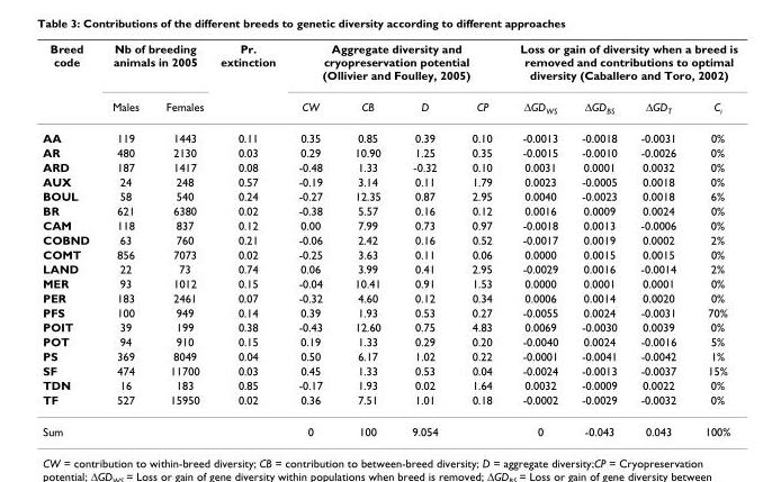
<table><thead><tr><td rowspan="2">Breed code</td><td colspan="2">Nb of breeding animals in 2005</td><td rowspan="2">Pr. extinction</td><td colspan="4">Aggregate diversity and cryopreservation potential (Ollivier and Foulley, 2005)</td><td colspan="4">Loss or gain of diversity when a breed is removed and contributions to optimal diversity (Caballero and Toro, 2002)</td></tr><tr><td>Males</td><td>Females</td><td>CW</td><td>CB</td><td>D</td><td>CP</td><td>ΔGD<sub>WS</sub></td><td>ΔGD<sub>BS</sub></td><td>ΔGD<sub>T</sub></td><td>C<sub>i</sub></td></tr></thead><tbody><tr><td>AA</td><td>119</td><td>1443</td><td>0.11</td><td>0.35</td><td>0.85</td><td>0.39</td><td>0.10</td><td>-0.0013</td><td>-0.0018</td><td>-0.0031</td><td>0%</td></tr><tr><td>AR</td><td>480</td><td>2130</td><td>0.03</td><td>0.29</td><td>10.90</td><td>1.25</td><td>0.35</td><td>-0.0015</td><td>-0.0010</td><td>-0.0026</td><td>0%</td></tr><tr><td>ARD</td><td>187</td><td>1417</td><td>0.08</td><td>-0.48</td><td>1.33</td><td>-0.32</td><td>0.10</td><td>0.0031</td><td>0.0001</td><td>0.0032</td><td>0%</td></tr><tr><td>AUX</td><td>24</td><td>248</td><td>0.57</td><td>-0.19</td><td>3.14</td><td>0.11</td><td>1.79</td><td>0.0023</td><td>-0.0005</td><td>0.0018</td><td>0%</td></tr><tr><td>BOUL</td><td>58</td><td>540</td><td>0.24</td><td>-0.27</td><td>12.35</td><td>0.87</td><td>2.95</td><td>0.0040</td><td>-0.0023</td><td>0.0018</td><td>6%</td></tr><tr><td>BR</td><td>621</td><td>6380</td><td>0.02</td><td>-0.38</td><td>5.57</td><td>0.16</td><td>0.12</td><td>0.0016</td><td>0.0009</td><td>0.0024</td><td>0%</td></tr><tr><td>CAM</td><td>118</td><td>837</td><td>0.12</td><td>0.00</td><td>7.99</td><td>0.73</td><td>0.97</td><td>-0.0018</td><td>0.0013</td><td>-0.0006</td><td>0%</td></tr><tr><td>COBND</td><td>63</td><td>760</td><td>0.21</td><td>-0.06</td><td>2.42</td><td>0.16</td><td>0.52</td><td>-0.0017</td><td>0.0019</td><td>0.0002</td><td>2%</td></tr><tr><td>COMT</td><td>856</td><td>7073</td><td>0.02</td><td>-0.25</td><td>3.63</td><td>0.11</td><td>0.06</td><td>0.0000</td><td>0.0015</td><td>0.0015</td><td>0%</td></tr><tr><td>LAND</td><td>22</td><td>73</td><td>0.74</td><td>0.06</td><td>3.99</td><td>0.41</td><td>2.95</td><td>-0.0029</td><td>0.0016</td><td>-0.0014</td><td>2%</td></tr><tr><td>MER</td><td>93</td><td>1012</td><td>0.15</td><td>-0.04</td><td>10.41</td><td>0.91</td><td>1.53</td><td>0.0000</td><td>0.0001</td><td>0.0001</td><td>0%</td></tr><tr><td>PER</td><td>183</td><td>2461</td><td>0.07</td><td>-0.32</td><td>4.60</td><td>0.12</td><td>0.34</td><td>0.0006</td><td>0.0014</td><td>0.0020</td><td>0%</td></tr><tr><td>PFS</td><td>100</td><td>949</td><td>0.14</td><td>0.39</td><td>1.93</td><td>0.53</td><td>0.27</td><td>-0.0055</td><td>0.0024</td><td>-0.0031</td><td>70%</td></tr><tr><td>POIT</td><td>39</td><td>199</td><td>0.38</td><td>-0.43</td><td>12.60</td><td>0.75</td><td>4.83</td><td>0.0069</td><td>-0.0030</td><td>0.0039</td><td>0%</td></tr><tr><td>POT</td><td>94</td><td>910</td><td>0.15</td><td>0.19</td><td>1.33</td><td>0.29</td><td>0.20</td><td>-0.0040</td><td>0.0024</td><td>-0.0016</td><td>5%</td></tr><tr><td>PS</td><td>369</td><td>8049</td><td>0.04</td><td>0.50</td><td>6.17</td><td>1.02</td><td>0.22</td><td>-0.0001</td><td>-0.0041</td><td>-0.0042</td><td>1%</td></tr><tr><td>SF</td><td>474</td><td>11700</td><td>0.03</td><td>0.45</td><td>1.33</td><td>0.53</td><td>0.04</td><td>-0.0024</td><td>-0.0013</td><td>-0.0037</td><td>15%</td></tr><tr><td>TDN</td><td>16</td><td>183</td><td>0.85</td><td>-0.17</td><td>1.93</td><td>0.02</td><td>1.64</td><td>0.0032</td><td>-0.0009</td><td>0.0022</td><td>0%</td></tr><tr><td>TF</td><td>527</td><td>15950</td><td>0.02</td><td>0.36</td><td>7.51</td><td>1.01</td><td>0.18</td><td>-0.0002</td><td>-0.0029</td><td>-0.0032</td><td>0%</td></tr><tr><td>Sum</td><td></td><td></td><td></td><td>0</td><td>100</td><td>9.054</td><td></td><td>0</td><td>-0.043</td><td>0.043</td><td>100%</td></tr></tbody></table>